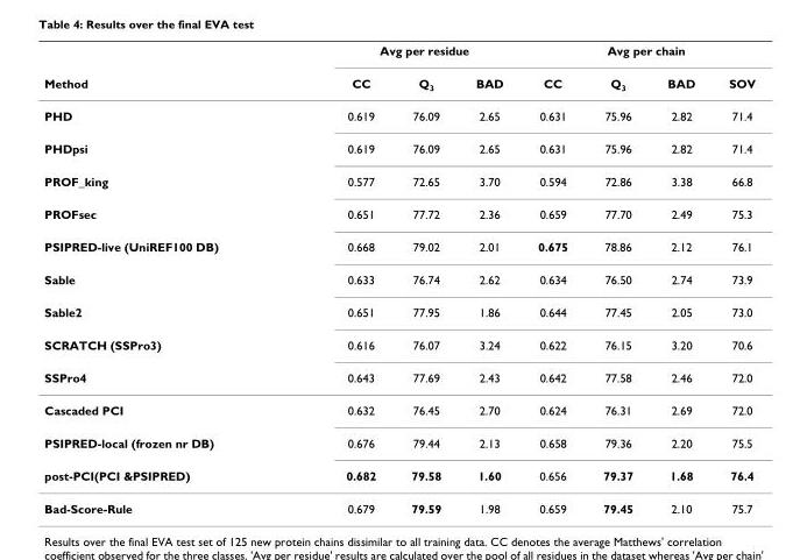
<table><thead><tr><td rowspan="2">Method</td><td colspan="3">Avg per residue</td><td colspan="4">Avg per chain</td></tr><tr><td>CC</td><td>Q<sub>3</sub></td><td>BAD</td><td>CC</td><td>Q<sub>3</sub></td><td>BAD</td><td>SOV</td></tr></thead><tbody><tr><td>PHD</td><td>0.619</td><td>76.09</td><td>2.65</td><td>0.631</td><td>75.96</td><td>2.82</td><td>71.4</td></tr><tr><td>PHDpsi</td><td>0.619</td><td>76.09</td><td>2.65</td><td>0.631</td><td>75.96</td><td>2.82</td><td>71.4</td></tr><tr><td>PROF_king</td><td>0.577</td><td>72.65</td><td>3.70</td><td>0.594</td><td>72.86</td><td>3.38</td><td>66.8</td></tr><tr><td>PROFsec</td><td>0.651</td><td>77.72</td><td>2.36</td><td>0.659</td><td>77.70</td><td>2.49</td><td>75.3</td></tr><tr><td>PSIPRED-live (UniREF100 DB)</td><td>0.668</td><td>79.02</td><td>2.01</td><td>0.675</td><td>78.86</td><td>2.12</td><td>76.1</td></tr><tr><td>Sable</td><td>0.633</td><td>76.74</td><td>2.62</td><td>0.634</td><td>76.50</td><td>2.74</td><td>73.9</td></tr><tr><td>Sable2</td><td>0.651</td><td>77.95</td><td>1.86</td><td>0.644</td><td>77.45</td><td>2.05</td><td>73.0</td></tr><tr><td>SCRATCH (SSPro3)</td><td>0.616</td><td>76.07</td><td>3.24</td><td>0.622</td><td>76.15</td><td>3.20</td><td>70.6</td></tr><tr><td>SSPro4</td><td>0.643</td><td>77.69</td><td>2.43</td><td>0.642</td><td>77.58</td><td>2.46</td><td>72.0</td></tr><tr><td>Cascaded PCI</td><td>0.632</td><td>76.45</td><td>2.70</td><td>0.624</td><td>76.31</td><td>2.69</td><td>72.0</td></tr><tr><td>PSIPRED-local (frozen nr DB)</td><td>0.676</td><td>79.44</td><td>2.13</td><td>0.658</td><td>79.36</td><td>2.20</td><td>75.5</td></tr><tr><td>post-PCI(PCI &amp;PSIPRED)</td><td>0.682</td><td>79.58</td><td>1.60</td><td>0.656</td><td>79.37</td><td>1.68</td><td>76.4</td></tr><tr><td>Bad-Score-Rule</td><td>0.679</td><td>79.59</td><td>1.98</td><td>0.659</td><td>79.45</td><td>2.10</td><td>75.7</td></tr></tbody></table>